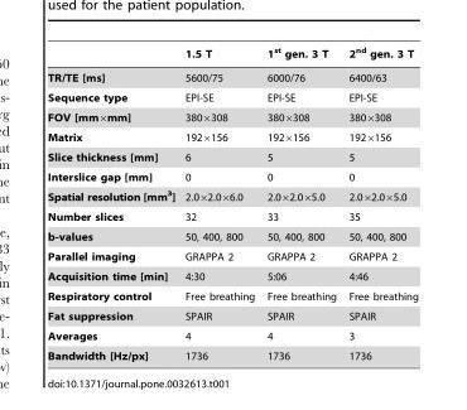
<table><thead><tr><td></td><td>1.5 T</td><td>1<sup>st</sup> gen. 3 T</td><td>2<sup>nd</sup> gen. 3 T</td></tr></thead><tbody><tr><td>TR/TE [ms]</td><td>5600/75</td><td>6000/76</td><td>6400/63</td></tr><tr><td>Sequence type</td><td>EPI-SE</td><td>EPI-SE</td><td>EPI-SE</td></tr><tr><td>FOV [mm×mm]</td><td>380×308</td><td>380×308</td><td>380×308</td></tr><tr><td>Matrix</td><td>192×156</td><td>192×156</td><td>192×156</td></tr><tr><td>Slice thickness [mm]</td><td>6</td><td>5</td><td>5</td></tr><tr><td>Interslice gap [mm]</td><td>0</td><td>0</td><td>0</td></tr><tr><td>Spatial resolution [mm<sup>3</sup>]</td><td>2.0×2.0×6.0</td><td>2.0×2.0×5.0</td><td>2.0×2.0×5.0</td></tr><tr><td>Number slices</td><td>32</td><td>33</td><td>35</td></tr><tr><td>b-values</td><td>50, 400, 800</td><td>50, 400, 800</td><td>50, 400, 800</td></tr><tr><td>Parallel imaging</td><td>GRAPPA 2</td><td>GRAPPA 2</td><td>GRAPPA 2</td></tr><tr><td>Acquisition time [min]</td><td>4:30</td><td>5:06</td><td>4:46</td></tr><tr><td>Respiratory control</td><td>Free breathing</td><td>Free breathing</td><td>Free breathing</td></tr><tr><td>Fat suppression</td><td>SPAIR</td><td>SPAIR</td><td>SPAIR</td></tr><tr><td>Averages</td><td>4</td><td>4</td><td>3</td></tr><tr><td>Bandwidth [Hz/px]</td><td>1736</td><td>1736</td><td>1736</td></tr></tbody></table>